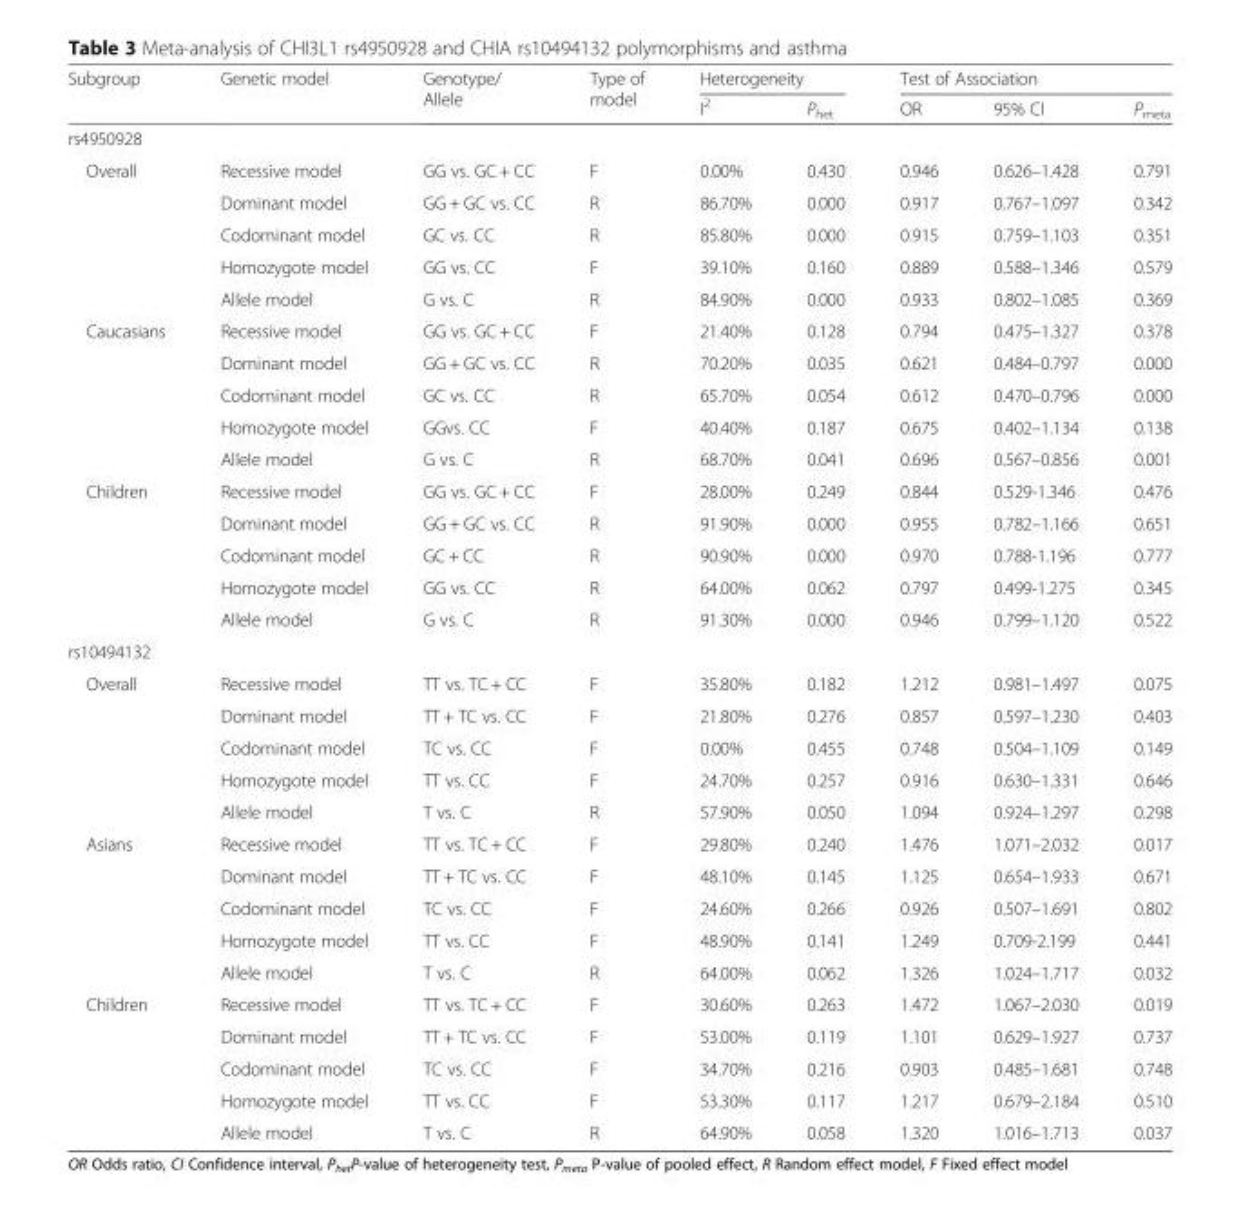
<table><thead><tr><td rowspan="2">Subgroup</td><td rowspan="2">Genetic model</td><td rowspan="2">Genotype/ Allele</td><td rowspan="2">Type of model</td><td colspan="2">Heterogeneity</td><td colspan="3">Test of Association</td></tr><tr><td>I<sup>2</sup></td><td>P<sub>het</sub></td><td>OR</td><td>95% CI</td><td>P<sub>meta</sub></td></tr></thead><tbody><tr><td colspan="9">rs4950928</td></tr><tr><td rowspan="5">Overall</td><td>Recessive model</td><td>GG vs. GC + CC</td><td>F</td><td>0.00%</td><td>0.430</td><td>0.946</td><td>0.626–1.428</td><td>0.791</td></tr><tr><td>Dominant model</td><td>GG + GC vs. CC</td><td>R</td><td>86.70%</td><td>0.000</td><td>0.917</td><td>0.767–1.097</td><td>0.342</td></tr><tr><td>Codominant model</td><td>GC vs. CC</td><td>R</td><td>85.80%</td><td>0.000</td><td>0.915</td><td>0.759–1.103</td><td>0.351</td></tr><tr><td>Homozygote model</td><td>GG vs. CC</td><td>F</td><td>39.10%</td><td>0.160</td><td>0.889</td><td>0.588–1.346</td><td>0.579</td></tr><tr><td>Allele model</td><td>G vs. C</td><td>R</td><td>84.90%</td><td>0.000</td><td>0.933</td><td>0.802–1.085</td><td>0.369</td></tr><tr><td rowspan="5">Caucasians</td><td>Recessive model</td><td>GG vs. GC + CC</td><td>F</td><td>21.40%</td><td>0.128</td><td>0.794</td><td>0.475–1.327</td><td>0.378</td></tr><tr><td>Dominant model</td><td>GG + GC vs. CC</td><td>R</td><td>70.20%</td><td>0.035</td><td>0.621</td><td>0.484–0.797</td><td>0.000</td></tr><tr><td>Codominant model</td><td>GC vs. CC</td><td>R</td><td>65.70%</td><td>0.054</td><td>0.612</td><td>0.470–0.796</td><td>0.000</td></tr><tr><td>Homozygote model</td><td>GGvs. CC</td><td>F</td><td>40.40%</td><td>0.187</td><td>0.675</td><td>0.402–1.134</td><td>0.138</td></tr><tr><td>Allele model</td><td>G vs. C</td><td>R</td><td>68.70%</td><td>0.041</td><td>0.696</td><td>0.567–0.856</td><td>0.001</td></tr><tr><td rowspan="5">Children</td><td>Recessive model</td><td>GG vs. GC + CC</td><td>F</td><td>28.00%</td><td>0.249</td><td>0.844</td><td>0.529-1.346</td><td>0.476</td></tr><tr><td>Dominant model</td><td>GG + GC vs. CC</td><td>R</td><td>91.90%</td><td>0.000</td><td>0.955</td><td>0.782–1.166</td><td>0.651</td></tr><tr><td>Codominant model</td><td>GC + CC</td><td>R</td><td>90.90%</td><td>0.000</td><td>0.970</td><td>0.788-1.196</td><td>0.777</td></tr><tr><td>Homozygote model</td><td>GG vs. CC</td><td>R</td><td>64.00%</td><td>0.062</td><td>0.797</td><td>0.499-1.275</td><td>0.345</td></tr><tr><td>Allele model</td><td>G vs. C</td><td>R</td><td>91.30%</td><td>0.000</td><td>0.946</td><td>0.799–1.120</td><td>0.522</td></tr><tr><td colspan="9">rs10494132</td></tr><tr><td rowspan="5">Overall</td><td>Recessive model</td><td>TT vs. TC + CC</td><td>F</td><td>35.80%</td><td>0.182</td><td>1.212</td><td>0.981–1.497</td><td>0.075</td></tr><tr><td>Dominant model</td><td>TT + TC vs. CC</td><td>F</td><td>21.80%</td><td>0.276</td><td>0.857</td><td>0.597–1.230</td><td>0.403</td></tr><tr><td>Codominant model</td><td>TC vs. CC</td><td>F</td><td>0.00%</td><td>0.455</td><td>0.748</td><td>0.504–1.109</td><td>0.149</td></tr><tr><td>Homozygote model</td><td>TT vs. CC</td><td>F</td><td>24.70%</td><td>0.257</td><td>0.916</td><td>0.630–1.331</td><td>0.646</td></tr><tr><td>Allele model</td><td>T vs. C</td><td>R</td><td>57.90%</td><td>0.050</td><td>1.094</td><td>0.924–1.297</td><td>0.298</td></tr><tr><td rowspan="5">Asians</td><td>Recessive model</td><td>TT vs. TC + CC</td><td>F</td><td>29.80%</td><td>0.240</td><td>1.476</td><td>1.071–2.032</td><td>0.017</td></tr><tr><td>Dominant model</td><td>TT + TC vs. CC</td><td>F</td><td>48.10%</td><td>0.145</td><td>1.125</td><td>0.654–1.933</td><td>0.671</td></tr><tr><td>Codominant model</td><td>TC vs. CC</td><td>F</td><td>24.60%</td><td>0.266</td><td>0.926</td><td>0.507–1.691</td><td>0.802</td></tr><tr><td>Homozygote model</td><td>TT vs. CC</td><td>F</td><td>48.90%</td><td>0.141</td><td>1.249</td><td>0.709-2.199</td><td>0.441</td></tr><tr><td>Allele model</td><td>T vs. C</td><td>R</td><td>64.00%</td><td>0.062</td><td>1.326</td><td>1.024–1.717</td><td>0.032</td></tr><tr><td rowspan="5">Children</td><td>Recessive model</td><td>TT vs. TC + CC</td><td>F</td><td>30.60%</td><td>0.263</td><td>1.472</td><td>1.067–2.030</td><td>0.019</td></tr><tr><td>Dominant model</td><td>TT + TC vs. CC</td><td>F</td><td>53.00%</td><td>0.119</td><td>1.101</td><td>0.629–1.927</td><td>0.737</td></tr><tr><td>Codominant model</td><td>TC vs. CC</td><td>F</td><td>34.70%</td><td>0.216</td><td>0.903</td><td>0.485–1.681</td><td>0.748</td></tr><tr><td>Homozygote model</td><td>TT vs. CC</td><td>F</td><td>53.30%</td><td>0.117</td><td>1.217</td><td>0.679–2.184</td><td>0.510</td></tr><tr><td>Allele model</td><td>T vs. C</td><td>R</td><td>64.90%</td><td>0.058</td><td>1.320</td><td>1.016–1.713</td><td>0.037</td></tr></tbody></table>